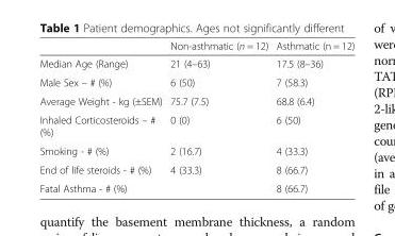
<table><thead><tr><td></td><td>Non-asthmatic (n = 12)</td><td>Asthmatic (n = 12)</td></tr></thead><tbody><tr><td>Median Age (Range)</td><td>21 (4–63)</td><td>17.5 (8–36)</td></tr><tr><td>Male Sex – # (%)</td><td>6 (50)</td><td>7 (58.3)</td></tr><tr><td>Average Weight - kg (±SEM)</td><td>75.7 (7.5)</td><td>68.8 (6.4)</td></tr><tr><td>Inhaled Corticosteroids – # (%)</td><td>0 (0)</td><td>6 (50)</td></tr><tr><td>Smoking - # (%)</td><td>2 (16.7)</td><td>4 (33.3)</td></tr><tr><td>End of life steroids - # (%)</td><td>4 (33.3)</td><td>8 (66.7)</td></tr><tr><td>Fatal Asthma - # (%)</td><td></td><td>8 (66.7)</td></tr></tbody></table>